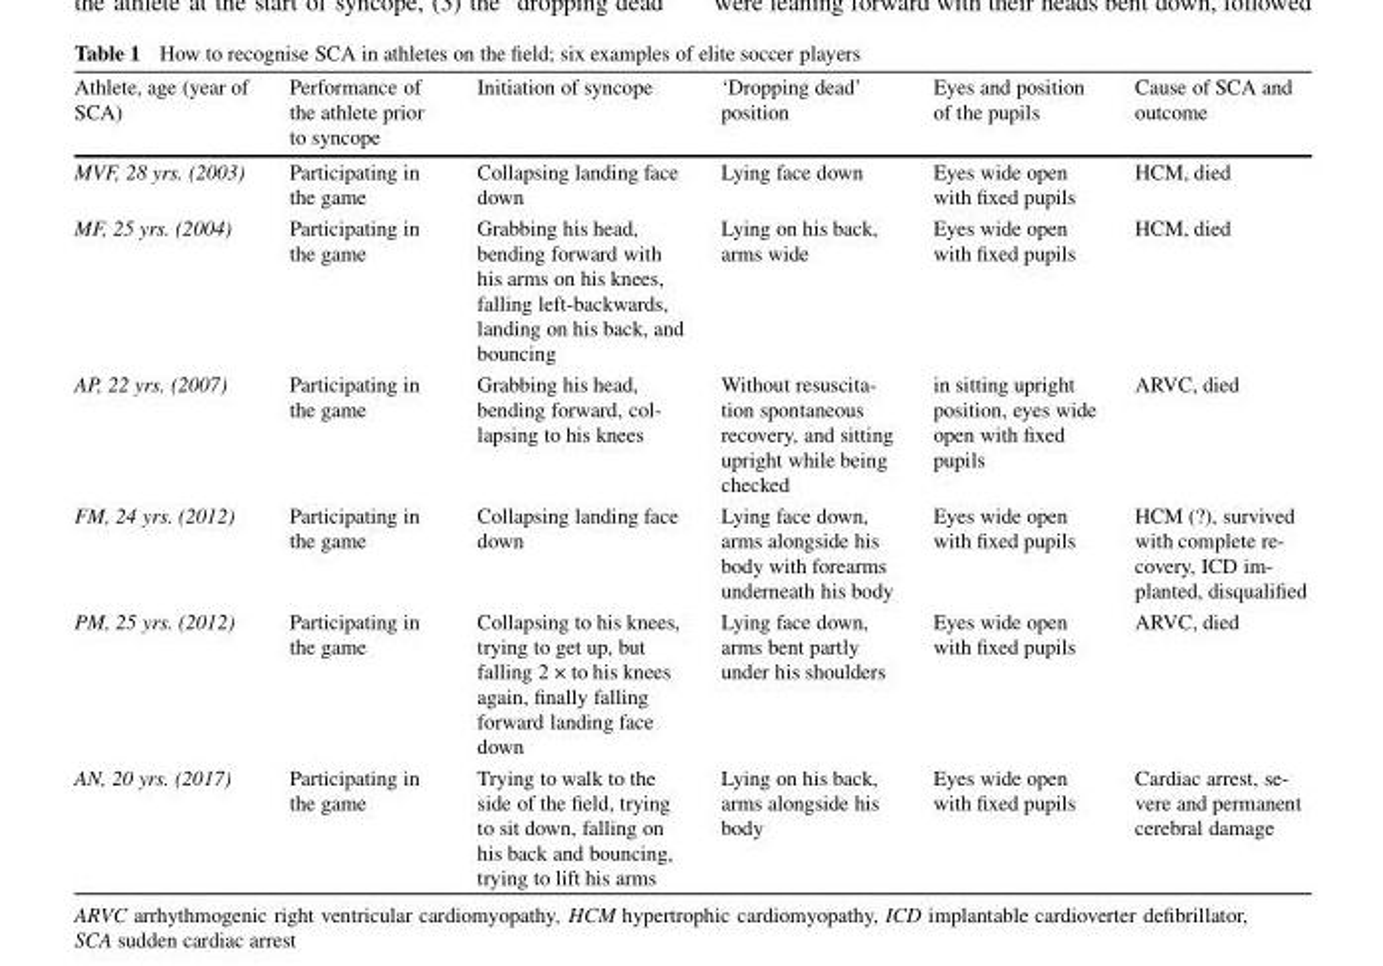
<table><thead><tr><td>Athlete, age (year of SCA)</td><td>Performance of the athlete prior to syncope</td><td>Initiation of syncope</td><td>‘Dropping dead’ position</td><td>Eyes and position of the pupils</td><td>Cause of SCA and outcome</td></tr></thead><tbody><tr><td>MVF, 28 yrs. (2003)</td><td>Participating in the game</td><td>Collapsing landing face down</td><td>Lying face down</td><td>Eyes wide open with fixed pupils</td><td>HCM, died</td></tr><tr><td>MF, 25 yrs. (2004)</td><td>Participating in the game</td><td>Grabbing his head, bending forward with his arms on his knees, falling left-backwards, landing on his back, and bouncing</td><td>Lying on his back, arms wide</td><td>Eyes wide open with fixed pupils</td><td>HCM, died</td></tr><tr><td>AP, 22 yrs. (2007)</td><td>Participating in the game</td><td>Grabbing his head, bending forward, col- lapsing to his knees</td><td>Without resuscita- tion spontaneous recovery, and sitting upright while being checked</td><td>in sitting upright position, eyes wide open with fixed pupils</td><td>ARVC, died</td></tr><tr><td>FM, 24 yrs. (2012)</td><td>Participating in the game</td><td>Collapsing landing face down</td><td>Lying face down, arms alongside his body with forearms underneath his body</td><td>Eyes wide open with fixed pupils</td><td>HCM (?), survived with complete re- covery, ICD im- planted, disqualified</td></tr><tr><td>PM, 25 yrs. (2012)</td><td>Participating in the game</td><td>Collapsing to his knees, trying to get up, but falling 2 × to his knees again, finally falling forward landing face down</td><td>Lying face down, arms bent partly under his shoulders</td><td>Eyes wide open with fixed pupils</td><td>ARVC, died</td></tr><tr><td>AN, 20 yrs. (2017)</td><td>Participating in the game</td><td>Trying to walk to the side of the field, trying to sit down, falling on his back and bouncing, trying to lift his arms</td><td>Lying on his back, arms alongside his body</td><td>Eyes wide open with fixed pupils</td><td>Cardiac arrest, se- vere and permanent cerebral damage</td></tr></tbody></table>